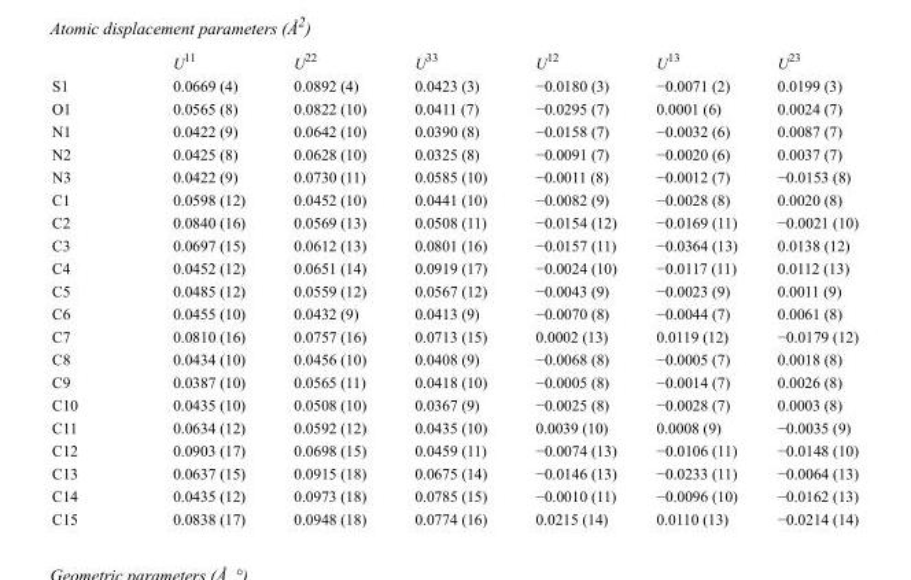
<table><thead><tr><td></td><td>U<sup>11</sup></td><td>U<sup>22</sup></td><td>U<sup>33</sup></td><td>U<sup>12</sup></td><td>U<sup>13</sup></td><td>U<sup>23</sup></td></tr></thead><tbody><tr><td>S1</td><td>0.0669 (4)</td><td>0.0892 (4)</td><td>0.0423 (3)</td><td>−0.0180 (3)</td><td>−0.0071 (2)</td><td>0.0199 (3)</td></tr><tr><td>O1</td><td>0.0565 (8)</td><td>0.0822 (10)</td><td>0.0411 (7)</td><td>−0.0295 (7)</td><td>0.0001 (6)</td><td>0.0024 (7)</td></tr><tr><td>N1</td><td>0.0422 (9)</td><td>0.0642 (10)</td><td>0.0390 (8)</td><td>−0.0158 (7)</td><td>−0.0032 (6)</td><td>0.0087 (7)</td></tr><tr><td>N2</td><td>0.0425 (8)</td><td>0.0628 (10)</td><td>0.0325 (8)</td><td>−0.0091 (7)</td><td>−0.0020 (6)</td><td>0.0037 (7)</td></tr><tr><td>N3</td><td>0.0422 (9)</td><td>0.0730 (11)</td><td>0.0585 (10)</td><td>−0.0011 (8)</td><td>−0.0012 (7)</td><td>−0.0153 (8)</td></tr><tr><td>C1</td><td>0.0598 (12)</td><td>0.0452 (10)</td><td>0.0441 (10)</td><td>−0.0082 (9)</td><td>−0.0028 (8)</td><td>0.0020 (8)</td></tr><tr><td>C2</td><td>0.0840 (16)</td><td>0.0569 (13)</td><td>0.0508 (11)</td><td>−0.0154 (12)</td><td>−0.0169 (11)</td><td>−0.0021 (10)</td></tr><tr><td>C3</td><td>0.0697 (15)</td><td>0.0612 (13)</td><td>0.0801 (16)</td><td>−0.0157 (11)</td><td>−0.0364 (13)</td><td>0.0138 (12)</td></tr><tr><td>C4</td><td>0.0452 (12)</td><td>0.0651 (14)</td><td>0.0919 (17)</td><td>−0.0024 (10)</td><td>−0.0117 (11)</td><td>0.0112 (13)</td></tr><tr><td>C5</td><td>0.0485 (12)</td><td>0.0559 (12)</td><td>0.0567 (12)</td><td>−0.0043 (9)</td><td>−0.0023 (9)</td><td>0.0011 (9)</td></tr><tr><td>C6</td><td>0.0455 (10)</td><td>0.0432 (9)</td><td>0.0413 (9)</td><td>−0.0070 (8)</td><td>−0.0044 (7)</td><td>0.0061 (8)</td></tr><tr><td>C7</td><td>0.0810 (16)</td><td>0.0757 (16)</td><td>0.0713 (15)</td><td>0.0002 (13)</td><td>0.0119 (12)</td><td>−0.0179 (12)</td></tr><tr><td>C8</td><td>0.0434 (10)</td><td>0.0456 (10)</td><td>0.0408 (9)</td><td>−0.0068 (8)</td><td>−0.0005 (7)</td><td>0.0018 (8)</td></tr><tr><td>C9</td><td>0.0387 (10)</td><td>0.0565 (11)</td><td>0.0418 (10)</td><td>−0.0005 (8)</td><td>−0.0014 (7)</td><td>0.0026 (8)</td></tr><tr><td>C10</td><td>0.0435 (10)</td><td>0.0508 (10)</td><td>0.0367 (9)</td><td>−0.0025 (8)</td><td>−0.0028 (7)</td><td>0.0003 (8)</td></tr><tr><td>C11</td><td>0.0634 (12)</td><td>0.0592 (12)</td><td>0.0435 (10)</td><td>0.0039 (10)</td><td>0.0008 (9)</td><td>−0.0035 (9)</td></tr><tr><td>C12</td><td>0.0903 (17)</td><td>0.0698 (15)</td><td>0.0459 (11)</td><td>−0.0074 (13)</td><td>−0.0106 (11)</td><td>−0.0148 (10)</td></tr><tr><td>C13</td><td>0.0637 (15)</td><td>0.0915 (18)</td><td>0.0675 (14)</td><td>−0.0146 (13)</td><td>−0.0233 (11)</td><td>−0.0064 (13)</td></tr><tr><td>C14</td><td>0.0435 (12)</td><td>0.0973 (18)</td><td>0.0785 (15)</td><td>−0.0010 (11)</td><td>−0.0096 (10)</td><td>−0.0162 (13)</td></tr><tr><td>C15</td><td>0.0838 (17)</td><td>0.0948 (18)</td><td>0.0774 (16)</td><td>0.0215 (14)</td><td>0.0110 (13)</td><td>−0.0214 (14)</td></tr></tbody></table>